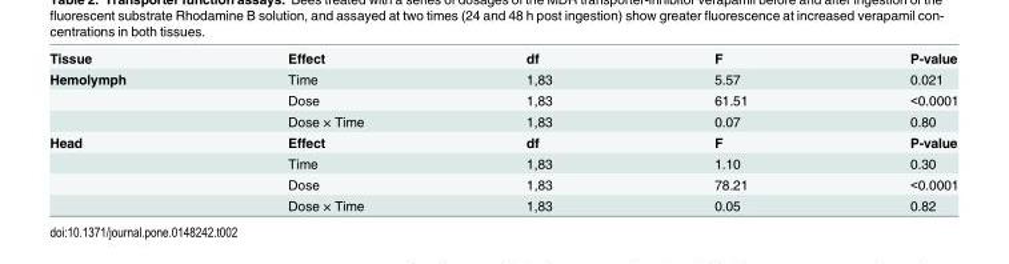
<table><tbody><tr><td>Tissue</td><td>Effect</td><td>df</td><td>F</td><td>P-value</td></tr><tr><td rowspan="3">Hemolymph</td><td>Time</td><td>1,83</td><td>5.57</td><td>0.021</td></tr><tr><td>Dose</td><td>1,83</td><td>61.51</td><td>&lt;0.0001</td></tr><tr><td>Dose × Time</td><td>1,83</td><td>0.07</td><td>0.80</td></tr><tr><td rowspan="4">Head</td><td>Effect</td><td>df</td><td>F</td><td>P-value</td></tr><tr><td>Time</td><td>1,83</td><td>1.10</td><td>0.30</td></tr><tr><td>Dose</td><td>1,83</td><td>78.21</td><td>&lt;0.0001</td></tr><tr><td>Dose × Time</td><td>1,83</td><td>0.05</td><td>0.82</td></tr></tbody></table>